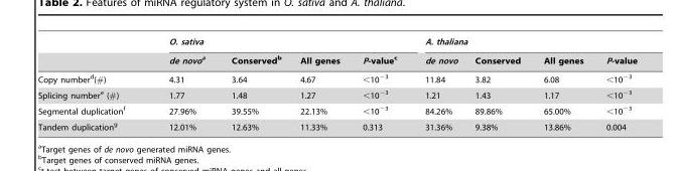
<table><thead><tr><td rowspan="2"></td><td colspan="4">O. sativa</td><td colspan="4">A. thaliana</td></tr><tr><td>de novoa</td><td>Conserved<sup>b</sup></td><td>All genes</td><td>P-value<sup>c</sup></td><td>de novo</td><td>Conserved</td><td>All genes</td><td>P-value</td></tr></thead><tbody><tr><td>Copy number<sup>d</sup>(#)</td><td>4.31</td><td>3.64</td><td>4.67</td><td>&lt;10<sup>−3</sup></td><td>11.84</td><td>3.82</td><td>6.08</td><td>&lt;10<sup>−3</sup></td></tr><tr><td>Splicing number<sup>e</sup> (#)</td><td>1.77</td><td>1.48</td><td>1.27</td><td>&lt;10<sup>−3</sup></td><td>1.21</td><td>1.43</td><td>1.17</td><td>&lt;10<sup>−3</sup></td></tr><tr><td>Segmental duplication<sup>f</sup></td><td>27.96%</td><td>39.55%</td><td>22.13%</td><td>&lt;10<sup>−3</sup></td><td>84.26%</td><td>89.86%</td><td>65.00%</td><td>&lt;10<sup>−3</sup></td></tr><tr><td>Tandem duplication<sup>g</sup></td><td>12.01%</td><td>12.63%</td><td>11.33%</td><td>0.313</td><td>31.36%</td><td>9.38%</td><td>13.86%</td><td>0.004</td></tr></tbody></table>